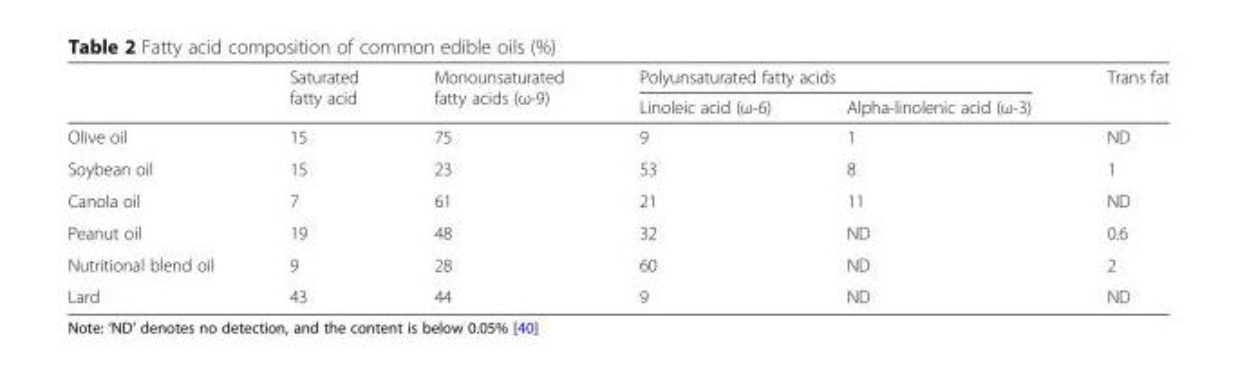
<table><thead><tr><td rowspan="2"></td><td rowspan="2">Saturated fatty acid</td><td rowspan="2">Monounsaturated fatty acids (ω-9)</td><td colspan="2">Polyunsaturated fatty acids</td><td rowspan="2">Trans fat</td></tr><tr><td>Linoleic acid (ω-6)</td><td>Alpha-linolenic acid (ω-3)</td></tr></thead><tbody><tr><td>Olive oil</td><td>15</td><td>75</td><td>9</td><td>1</td><td>ND</td></tr><tr><td>Soybean oil</td><td>15</td><td>23</td><td>53</td><td>8</td><td>1</td></tr><tr><td>Canola oil</td><td>7</td><td>61</td><td>21</td><td>11</td><td>ND</td></tr><tr><td>Peanut oil</td><td>19</td><td>48</td><td>32</td><td>ND</td><td>0.6</td></tr><tr><td>Nutritional blend oil</td><td>9</td><td>28</td><td>60</td><td>ND</td><td>2</td></tr><tr><td>Lard</td><td>43</td><td>44</td><td>9</td><td>ND</td><td>ND</td></tr></tbody></table>